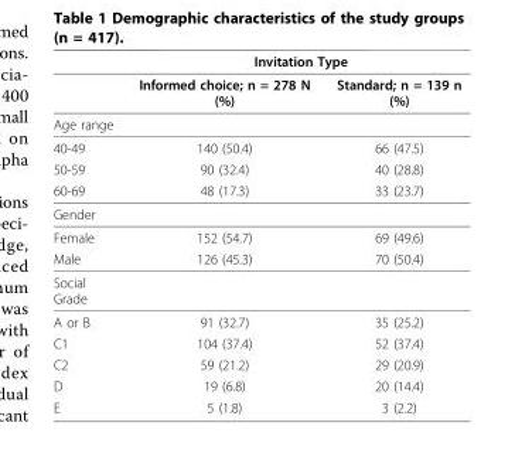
<table><thead><tr><td rowspan="2"></td><td colspan="2">Invitation Type</td></tr><tr><td>Informed choice; n = 278 N (%)</td><td>Standard; n = 139 n (%)</td></tr></thead><tbody><tr><td colspan="3">Age range</td></tr><tr><td>40-49</td><td>140 (50.4)</td><td>66 (47.5)</td></tr><tr><td>50-59</td><td>90 (32.4)</td><td>40 (28.8)</td></tr><tr><td>60-69</td><td>48 (17.3)</td><td>33 (23.7)</td></tr><tr><td colspan="3">Gender</td></tr><tr><td>Female</td><td>152 (54.7)</td><td>69 (49.6)</td></tr><tr><td>Male</td><td>126 (45.3)</td><td>70 (50.4)</td></tr><tr><td colspan="3">Social Grade</td></tr><tr><td>A or B</td><td>91 (32.7)</td><td>35 (25.2)</td></tr><tr><td>C1</td><td>104 (37.4)</td><td>52 (37.4)</td></tr><tr><td>C2</td><td>59 (21.2)</td><td>29 (20.9)</td></tr><tr><td>D</td><td>19 (6.8)</td><td>20 (14.4)</td></tr><tr><td>E</td><td>5 (1.8)</td><td>3 (2.2)</td></tr></tbody></table>